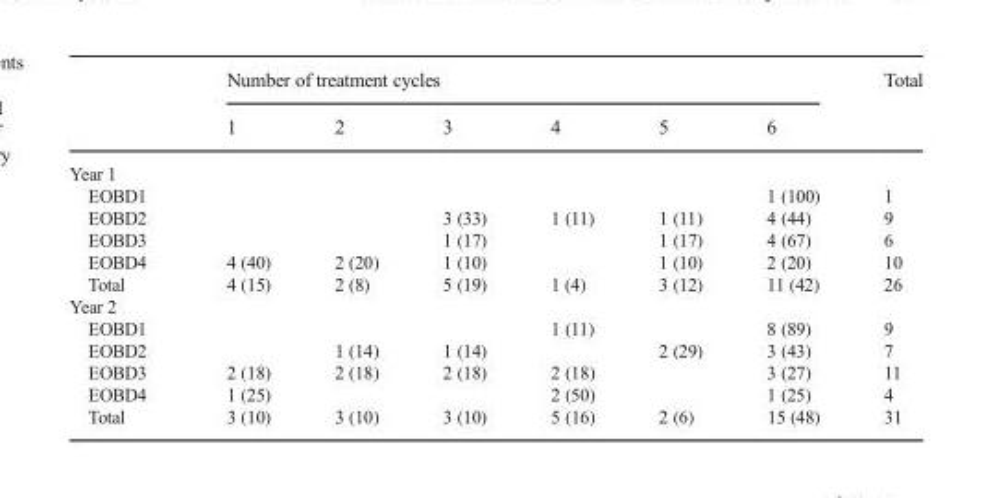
<table><thead><tr><td rowspan="2"></td><td colspan="6">Number of treatment cycles</td><td rowspan="2">Total</td></tr><tr><td>1</td><td>2</td><td>3</td><td>4</td><td>5</td><td>6</td></tr></thead><tbody><tr><td colspan="8">Year 1</td></tr><tr><td>EOBD1</td><td></td><td></td><td></td><td></td><td></td><td>1 (100)</td><td>1</td></tr><tr><td>EOBD2</td><td></td><td></td><td>3 (33)</td><td>1 (11)</td><td>1 (11)</td><td>4 (44)</td><td>9</td></tr><tr><td>EOBD3</td><td></td><td></td><td>1 (17)</td><td></td><td>1 (17)</td><td>4 (67)</td><td>6</td></tr><tr><td>EOBD4</td><td>4 (40)</td><td>2 (20)</td><td>1 (10)</td><td></td><td>1 (10)</td><td>2 (20)</td><td>10</td></tr><tr><td>Total</td><td>4 (15)</td><td>2 (8)</td><td>5 (19)</td><td>1 (4)</td><td>3 (12)</td><td>11 (42)</td><td>26</td></tr><tr><td colspan="8">Year 2</td></tr><tr><td>EOBD1</td><td></td><td></td><td></td><td>1 (11)</td><td></td><td>8 (89)</td><td>9</td></tr><tr><td>EOBD2</td><td></td><td>1 (14)</td><td>1 (14)</td><td></td><td>2 (29)</td><td>3 (43)</td><td>7</td></tr><tr><td>EOBD3</td><td>2 (18)</td><td>2 (18)</td><td>2 (18)</td><td>2 (18)</td><td></td><td>3 (27)</td><td>11</td></tr><tr><td>EOBD4</td><td>1 (25)</td><td></td><td></td><td>2 (50)</td><td></td><td>1 (25)</td><td>4</td></tr><tr><td>Total</td><td>3 (10)</td><td>3 (10)</td><td>3 (10)</td><td>5 (16)</td><td>2 (6)</td><td>15 (48)</td><td>31</td></tr></tbody></table>